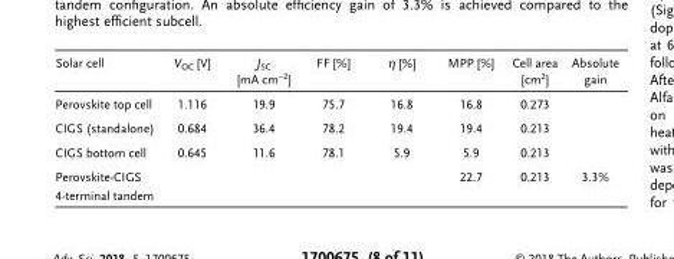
<table><thead><tr><td>Solar cell</td><td>V<sub>OC</sub> [V]</td><td>J<sub>SC</sub> [mA cm<sup>−2</sup>]</td><td>FF [%]</td><td>η [%]</td><td>MPP [%]</td><td>Cell area [cm<sup>2</sup>]</td><td>Absolute gain</td></tr></thead><tbody><tr><td>Perovskite top cell</td><td>1.116</td><td>19.9</td><td>75.7</td><td>16.8</td><td>16.8</td><td>0.273</td><td></td></tr><tr><td>CIGS (standalone)</td><td>0.684</td><td>36.4</td><td>78.2</td><td>19.4</td><td>19.4</td><td>0.213</td><td></td></tr><tr><td>CIGS bottom cell</td><td>0.645</td><td>11.6</td><td>78.1</td><td>5.9</td><td>5.9</td><td>0.213</td><td></td></tr><tr><td>Perovskite-CIGS 4-terminal tandem</td><td></td><td></td><td></td><td></td><td>22.7</td><td>0.213</td><td>3.3%</td></tr></tbody></table>